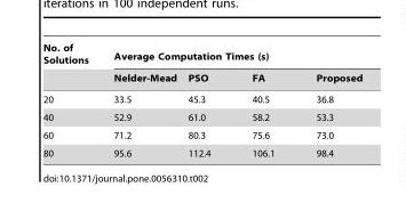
<table><thead><tr><td rowspan="2">No. of Solutions</td><td colspan="4">Average Computation Times (s)</td></tr><tr><td>Nelder-Mead</td><td>PSO</td><td>FA</td><td>Proposed</td></tr></thead><tbody><tr><td>20</td><td>33.5</td><td>45.3</td><td>40.5</td><td>36.8</td></tr><tr><td>40</td><td>52.9</td><td>61.0</td><td>58.2</td><td>53.3</td></tr><tr><td>60</td><td>71.2</td><td>80.3</td><td>75.6</td><td>73.0</td></tr><tr><td>80</td><td>95.6</td><td>112.4</td><td>106.1</td><td>98.4</td></tr></tbody></table>